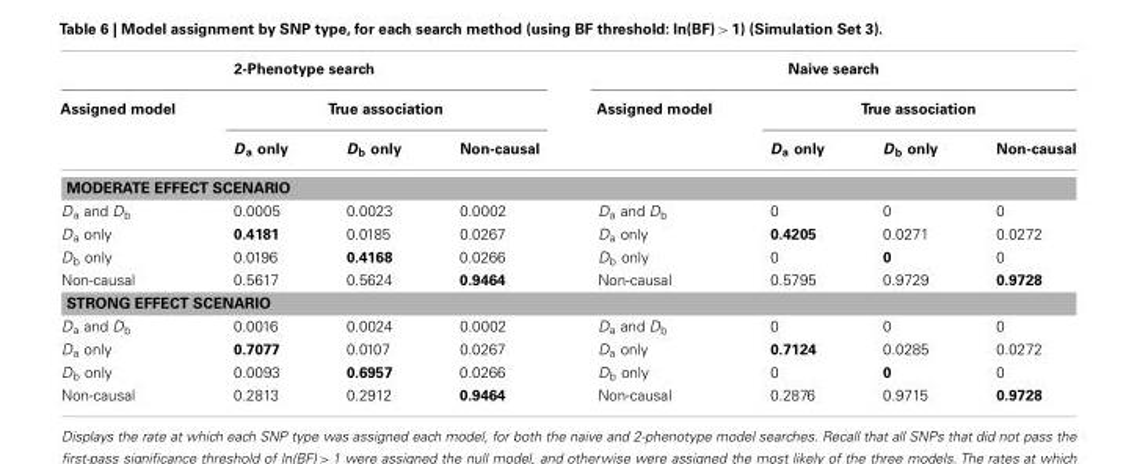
<table><thead><tr><td colspan="4">2-Phenotype search</td><td colspan="4">Naive search</td></tr><tr><td rowspan="2">Assigned model</td><td colspan="3">True association</td><td rowspan="2">Assigned model</td><td colspan="3">True association</td></tr><tr><td>D<sub>a</sub> only</td><td>D<sub>b</sub> only</td><td>Non-causal</td><td>D<sub>a</sub> only</td><td>D<sub>b</sub> only</td><td>Non-causal</td></tr></thead><tbody><tr><td colspan="8">MODERATE EFFECT SCENARIO</td></tr><tr><td>D<sub>a</sub> and D<sub>b</sub></td><td>0.0005</td><td>0.0023</td><td>0.0002</td><td>D<sub>a</sub> and D<sub>b</sub></td><td>0</td><td>0</td><td>0</td></tr><tr><td>D<sub>a</sub> only</td><td>0.4181</td><td>0.0185</td><td>0.0267</td><td>D<sub>a</sub> only</td><td>0.4205</td><td>0.0271</td><td>0.0272</td></tr><tr><td>D<sub>b</sub> only</td><td>0.0196</td><td>0.4168</td><td>0.0266</td><td>D<sub>b</sub> only</td><td>0</td><td>0</td><td>0</td></tr><tr><td>Non-causal</td><td>0.5617</td><td>0.5624</td><td>0.9464</td><td>Non-causal</td><td>0.5795</td><td>0.9729</td><td>0.9728</td></tr><tr><td colspan="8">STRONG EFFECT SCENARIO</td></tr><tr><td>D<sub>a</sub> and D<sub>b</sub></td><td>0.0016</td><td>0.0024</td><td>0.0002</td><td>D<sub>a</sub> and D<sub>b</sub></td><td>0</td><td>0</td><td>0</td></tr><tr><td>D<sub>a</sub> only</td><td>0.7077</td><td>0.0107</td><td>0.0267</td><td>D<sub>a</sub> only</td><td>0.7124</td><td>0.0285</td><td>0.0272</td></tr><tr><td>D<sub>b</sub> only</td><td>0.0093</td><td>0.6957</td><td>0.0266</td><td>D<sub>b</sub> only</td><td>0</td><td>0</td><td>0</td></tr><tr><td>Non-causal</td><td>0.2813</td><td>0.2912</td><td>0.9464</td><td>Non-causal</td><td>0.2876</td><td>0.9715</td><td>0.9728</td></tr></tbody></table>